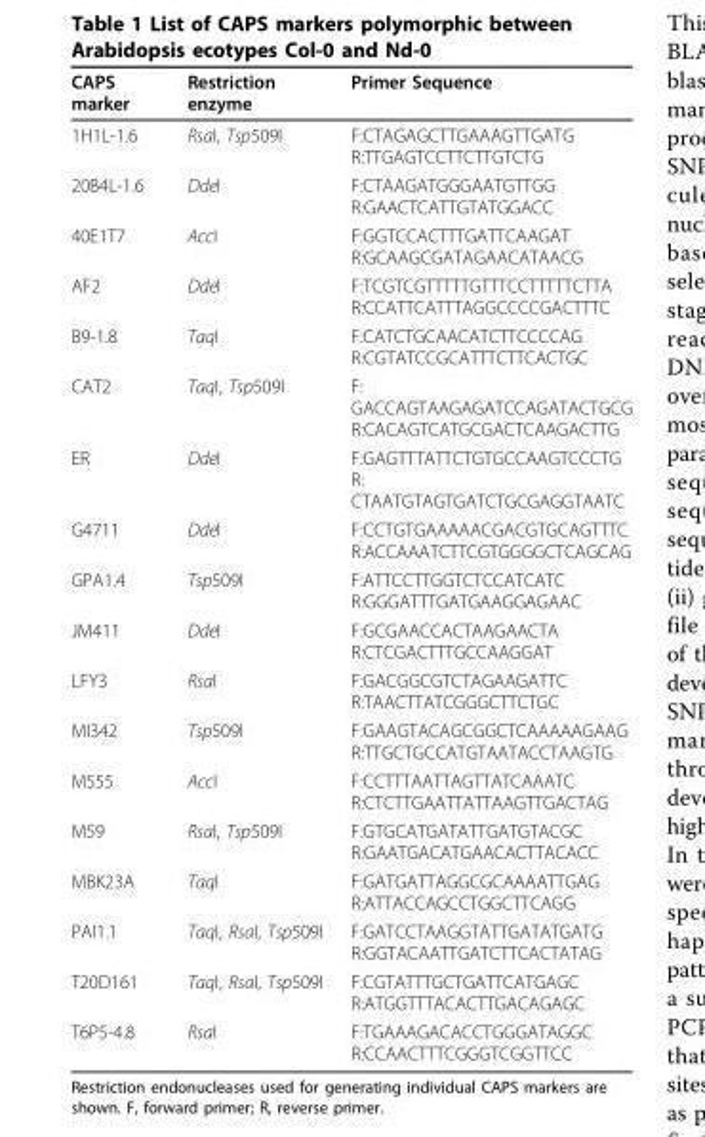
<table><thead><tr><td>CAPS marker</td><td>Restriction enzyme</td><td>Primer Sequence</td></tr></thead><tbody><tr><td>1H1L-1.6</td><td>RsaI, Tsp509I</td><td>F:CTAGAGCTTGAAAGTTGATG R:TTGAGTCCTTCTTGTCTG</td></tr><tr><td>20B4L-1.6</td><td>DdeI</td><td>F:CTAAGATGGGAATGTTGG R:GAACTCATTGTATGGACC</td></tr><tr><td>40E1T7</td><td>AccI</td><td>F:GGTCCACTTTGATTCAAGAT R:GCAAGCGATAGAACATAACG</td></tr><tr><td>AF2</td><td>DdeI</td><td>F:TCGTCGTTTTTGTTTCCTTTTTCTTA R:CCATTCATTTAGGCCCCGACTTTC</td></tr><tr><td>B9-1.8</td><td>TaqI</td><td>F:CATCTGCAACATCTTCCCCAG R:CGTATCCGCATTTCTTCACTGC</td></tr><tr><td>CAT2</td><td>TaqI, Tsp509I</td><td>F: GACCAGTAAGAGATCCAGATACTGCG R:CACAGTCATGCGACTCAAGACTTG</td></tr><tr><td>ER</td><td>DdeI</td><td>F:GAGTTTATTCTGTGCCAAGTCCCTG R: CTAATGTAGTGATCTGCGAGGTAATC</td></tr><tr><td>G4711</td><td>DdeI</td><td>F:CCTGTGAAAAACGACGTGCAGTTTC R:ACCAAATCTTCGTGGGGCTCAGCAG</td></tr><tr><td>GPA1.4</td><td>Tsp509I</td><td>F:ATTCCTTGGTCTCCATCATC R:GGGATTTGATGAAGGAGAAC</td></tr><tr><td>JM411</td><td>DdeI</td><td>F:GCGAACCACTAAGAACTA R:CTCGACTTTGCCAAGGAT</td></tr><tr><td>LFY3</td><td>RsaI</td><td>F:GACGGCGTCTAGAAGATTC R:TAACTTATCGGGCTTCTGC</td></tr><tr><td>MI342</td><td>Tsp509I</td><td>F:GAAGTACAGCGGCTCAAAAAGAAG R:TTGCTGCCATGTAATACCTAAGTG</td></tr><tr><td>M555</td><td>AccI</td><td>F:CCTTTAATTAGTTATCAAATC R:CTCTTGAATTATTAAGTTGACTAG</td></tr><tr><td>M59</td><td>RsaI, Tsp509I</td><td>F:GTGCATGATATTGATGTACGC R:GAATGACATGAACACTTACACC</td></tr><tr><td>MBK23A</td><td>TaqI</td><td>F:GATGATTAGGCGCAAAATTGAG R:ATTACCAGCCTGGCTTCAGG</td></tr><tr><td>PAI1.1</td><td>TaqI, RsaI, Tsp509I</td><td>F:GATCCTAAGGTATTGATATGATG R:GGTACAATTGATCTTCACTATAG</td></tr><tr><td>T20D161</td><td>TaqI, RsaI, Tsp509I</td><td>F:CGTATTTGCTGATTCATGAGC R:ATGGTTTACACTTGACAGAGC</td></tr><tr><td>T6P5-4.8</td><td>RsaI</td><td>F:TGAAAGACACCTGGGATAGGC R:CCAACTTTCGGGTCGGTTCC</td></tr></tbody></table>